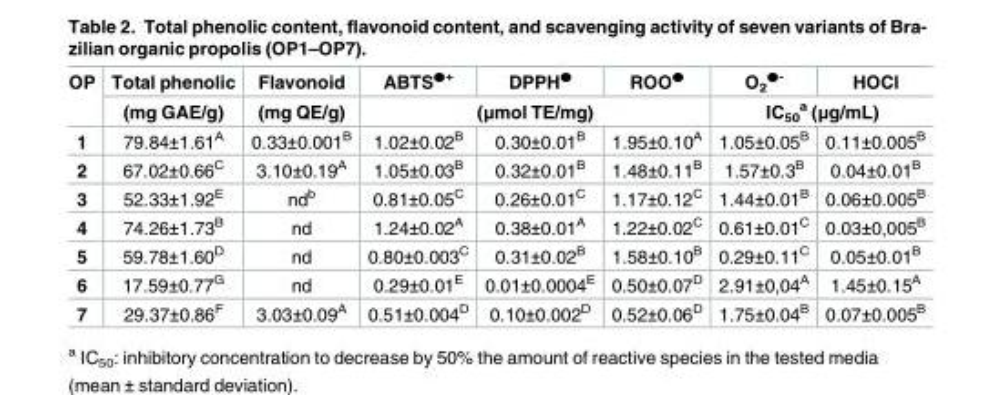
<table><thead><tr><td rowspan="2">OP</td><td rowspan="2">Total phenolic (mg GAE/g)</td><td rowspan="2">Flavonoid (mg QE/g)</td><td>ABTS<sup>●+</sup></td><td>DPPH<sup>●</sup></td><td>ROO<sup>●</sup></td><td>O<sub>2</sub> <sup>●-</sup></td><td>HOCl</td></tr><tr><td colspan="3">(μmol TE/mg)</td><td colspan="2">IC<sub>50</sub> <sup>a</sup> (μg/mL)</td></tr></thead><tbody><tr><td>1</td><td>79.84±1.61<sup>A</sup></td><td>0.33±0.001<sup>B</sup></td><td>1.02±0.02<sup>B</sup></td><td>0.30±0.01<sup>B</sup></td><td>1.95±0.10<sup>A</sup></td><td>1.05±0.05<sup>B</sup></td><td>0.11±0.005<sup>B</sup></td></tr><tr><td>2</td><td>67.02±0.66<sup>C</sup></td><td>3.10±0.19<sup>A</sup></td><td>1.05±0.03<sup>B</sup></td><td>0.32±0.01<sup>B</sup></td><td>1.48±0.11<sup>B</sup></td><td>1.57±0.3<sup>B</sup></td><td>0.04±0.01<sup>B</sup></td></tr><tr><td>3</td><td>52.33±1.92<sup>E</sup></td><td>nd<sup>b</sup></td><td>0.81±0.05<sup>C</sup></td><td>0.26±0.01<sup>C</sup></td><td>1.17±0.12<sup>C</sup></td><td>1.44±0.01<sup>B</sup></td><td>0.06±0.005<sup>B</sup></td></tr><tr><td>4</td><td>74.26±1.73<sup>B</sup></td><td>nd</td><td>1.24±0.02<sup>A</sup></td><td>0.38±0.01<sup>A</sup></td><td>1.22±0.02<sup>C</sup></td><td>0.61±0.01<sup>C</sup></td><td>0.03±0,005<sup>B</sup></td></tr><tr><td>5</td><td>59.78±1.60<sup>D</sup></td><td>nd</td><td>0.80±0.003<sup>C</sup></td><td>0.31±0.02<sup>B</sup></td><td>1.58±0.10<sup>B</sup></td><td>0.29±0.11<sup>C</sup></td><td>0.05±0.01<sup>B</sup></td></tr><tr><td>6</td><td>17.59±0.77<sup>G</sup></td><td>nd</td><td>0.29±0.01<sup>E</sup></td><td>0.01±0.0004<sup>E</sup></td><td>0.50±0.07<sup>D</sup></td><td>2.91±0,04<sup>A</sup></td><td>1.45±0.15<sup>A</sup></td></tr><tr><td>7</td><td>29.37±0.86<sup>F</sup></td><td>3.03±0.09<sup>A</sup></td><td>0.51±0.004<sup>D</sup></td><td>0.10±0.002<sup>D</sup></td><td>0.52±0.06<sup>D</sup></td><td>1.75±0.04<sup>B</sup></td><td>0.07±0.005<sup>B</sup></td></tr></tbody></table>